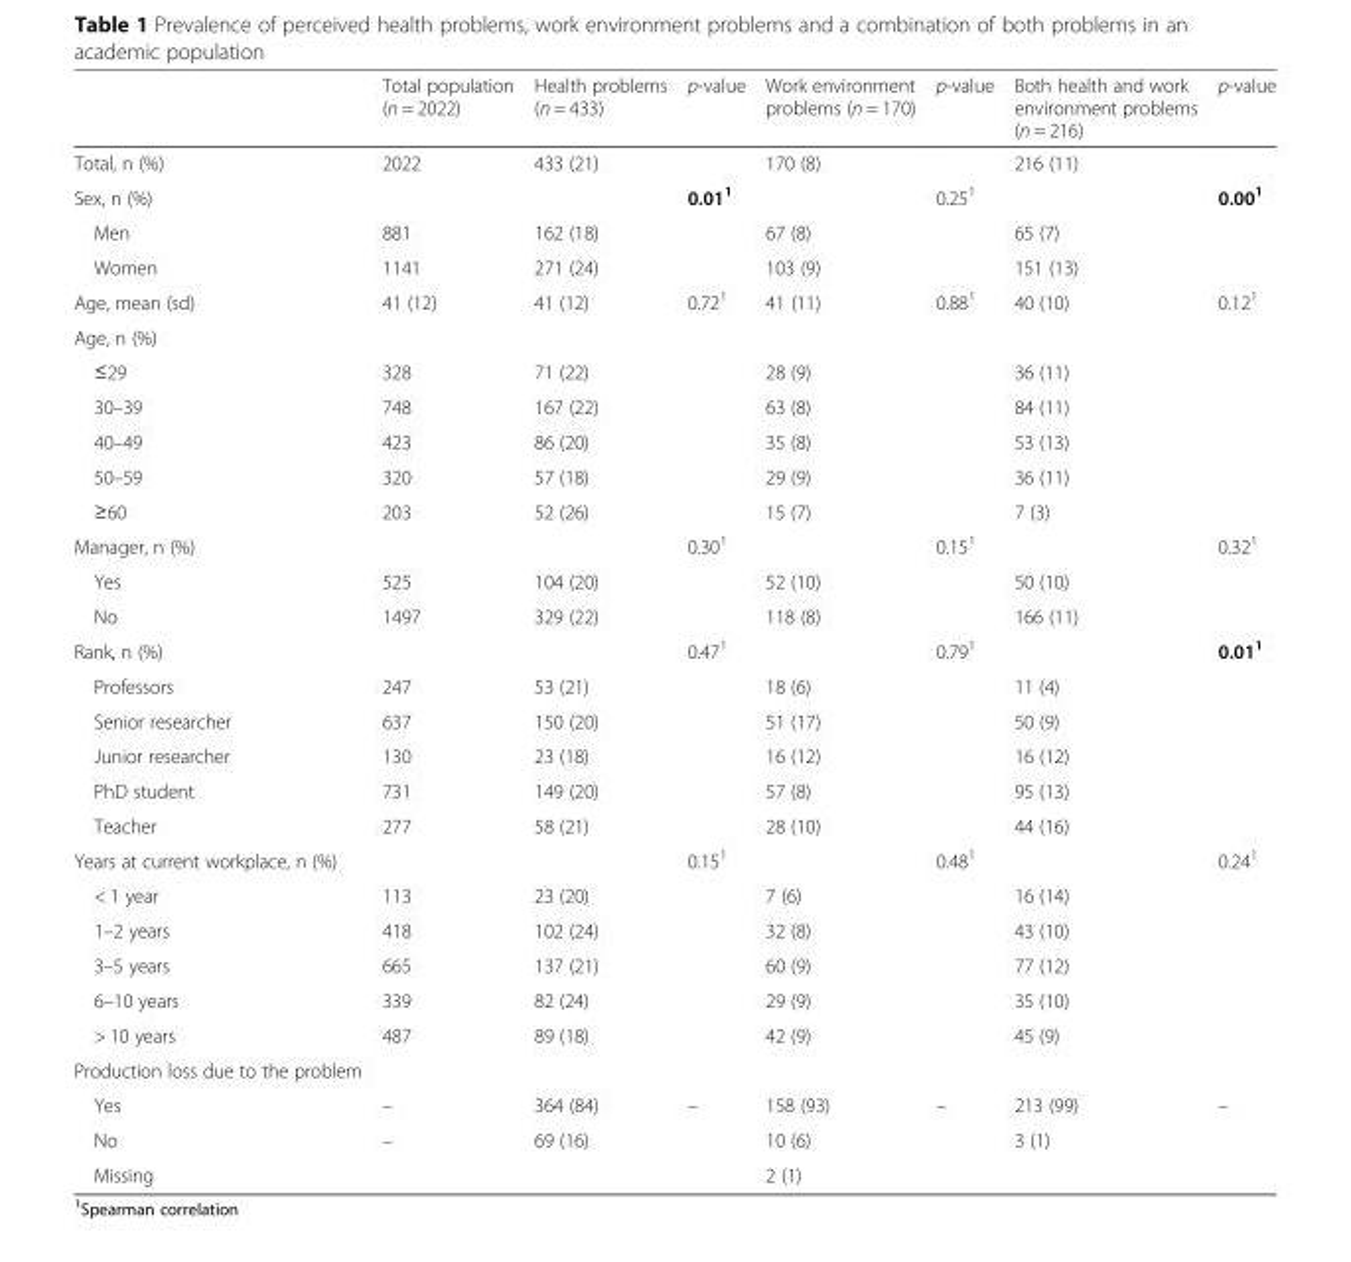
<table><thead><tr><td></td><td>Total population (n = 2022)</td><td>Health problems (n = 433)</td><td>p-value</td><td>Work environment problems (n = 170)</td><td>p-value</td><td>Both health and work environment problems (n = 216)</td><td>p-value</td></tr></thead><tbody><tr><td>Total, n (%)</td><td>2022</td><td>433 (21)</td><td></td><td>170 (8)</td><td></td><td>216 (11)</td><td></td></tr><tr><td>Sex, n (%)</td><td></td><td></td><td>0.01<sup>1</sup></td><td></td><td>0.25<sup>1</sup></td><td></td><td>0.00<sup>1</sup></td></tr><tr><td>Men</td><td>881</td><td>162 (18)</td><td></td><td>67 (8)</td><td></td><td>65 (7)</td><td></td></tr><tr><td>Women</td><td>1141</td><td>271 (24)</td><td></td><td>103 (9)</td><td></td><td>151 (13)</td><td></td></tr><tr><td>Age, mean (sd)</td><td>41 (12)</td><td>41 (12)</td><td>0.72<sup>1</sup></td><td>41 (11)</td><td>0.88<sup>1</sup></td><td>40 (10)</td><td>0.12<sup>1</sup></td></tr><tr><td colspan="8">Age, n (%)</td></tr><tr><td>≤29</td><td>328</td><td>71 (22)</td><td></td><td>28 (9)</td><td></td><td>36 (11)</td><td></td></tr><tr><td>30–39</td><td>748</td><td>167 (22)</td><td></td><td>63 (8)</td><td></td><td>84 (11)</td><td></td></tr><tr><td>40–49</td><td>423</td><td>86 (20)</td><td></td><td>35 (8)</td><td></td><td>53 (13)</td><td></td></tr><tr><td>50–59</td><td>320</td><td>57 (18)</td><td></td><td>29 (9)</td><td></td><td>36 (11)</td><td></td></tr><tr><td>≥60</td><td>203</td><td>52 (26)</td><td></td><td>15 (7)</td><td></td><td>7 (3)</td><td></td></tr><tr><td>Manager, n (%)</td><td></td><td></td><td>0.30<sup>1</sup></td><td></td><td>0.15<sup>1</sup></td><td></td><td>0.32<sup>1</sup></td></tr><tr><td>Yes</td><td>525</td><td>104 (20)</td><td></td><td>52 (10)</td><td></td><td>50 (10)</td><td></td></tr><tr><td>No</td><td>1497</td><td>329 (22)</td><td></td><td>118 (8)</td><td></td><td>166 (11)</td><td></td></tr><tr><td>Rank, n (%)</td><td></td><td></td><td>0.47<sup>1</sup></td><td></td><td>0.79<sup>1</sup></td><td></td><td>0.01<sup>1</sup></td></tr><tr><td>Professors</td><td>247</td><td>53 (21)</td><td></td><td>18 (6)</td><td></td><td>11 (4)</td><td></td></tr><tr><td>Senior researcher</td><td>637</td><td>150 (20)</td><td></td><td>51 (17)</td><td></td><td>50 (9)</td><td></td></tr><tr><td>Junior researcher</td><td>130</td><td>23 (18)</td><td></td><td>16 (12)</td><td></td><td>16 (12)</td><td></td></tr><tr><td>PhD student</td><td>731</td><td>149 (20)</td><td></td><td>57 (8)</td><td></td><td>95 (13)</td><td></td></tr><tr><td>Teacher</td><td>277</td><td>58 (21)</td><td></td><td>28 (10)</td><td></td><td>44 (16)</td><td></td></tr><tr><td>Years at current workplace, n (%)</td><td></td><td></td><td>0.15<sup>1</sup></td><td></td><td>0.48<sup>1</sup></td><td></td><td>0.24<sup>1</sup></td></tr><tr><td>&lt; 1 year</td><td>113</td><td>23 (20)</td><td></td><td>7 (6)</td><td></td><td>16 (14)</td><td></td></tr><tr><td>1–2 years</td><td>418</td><td>102 (24)</td><td></td><td>32 (8)</td><td></td><td>43 (10)</td><td></td></tr><tr><td>3–5 years</td><td>665</td><td>137 (21)</td><td></td><td>60 (9)</td><td></td><td>77 (12)</td><td></td></tr><tr><td>6–10 years</td><td>339</td><td>82 (24)</td><td></td><td>29 (9)</td><td></td><td>35 (10)</td><td></td></tr><tr><td>&gt; 10 years</td><td>487</td><td>89 (18)</td><td></td><td>42 (9)</td><td></td><td>45 (9)</td><td></td></tr><tr><td colspan="8">Production loss due to the problem</td></tr><tr><td>Yes</td><td>–</td><td>364 (84)</td><td>–</td><td>158 (93)</td><td>–</td><td>213 (99)</td><td>–</td></tr><tr><td>No</td><td>–</td><td>69 (16)</td><td></td><td>10 (6)</td><td></td><td>3 (1)</td><td></td></tr><tr><td>Missing</td><td></td><td></td><td></td><td>2 (1)</td><td></td><td></td><td></td></tr></tbody></table>